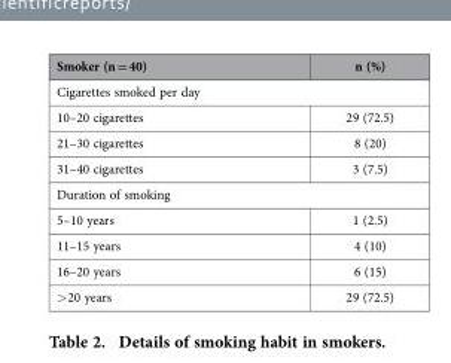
<table><thead><tr><td>Smoker (n = 40)</td><td>n (%)</td></tr></thead><tbody><tr><td colspan="2">Cigarettes smoked per day</td></tr><tr><td>10–20 cigarettes</td><td>29 (72.5)</td></tr><tr><td>21–30 cigarettes</td><td>8 (20)</td></tr><tr><td>31–40 cigarettes</td><td>3 (7.5)</td></tr><tr><td colspan="2">Duration of smoking</td></tr><tr><td>5–10 years</td><td>1 (2.5)</td></tr><tr><td>11–15 years</td><td>4 (10)</td></tr><tr><td>16–20 years</td><td>6 (15)</td></tr><tr><td>&gt; 20 years</td><td>29 (72.5)</td></tr></tbody></table>